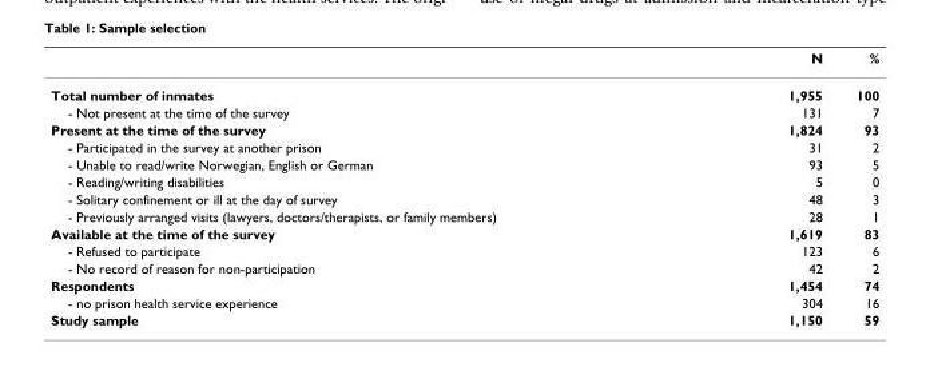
<table><thead><tr><td></td><td>N</td><td>%</td></tr></thead><tbody><tr><td>Total number of inmates</td><td>1,955</td><td>100</td></tr><tr><td>- Not present at the time of the survey</td><td>131</td><td>7</td></tr><tr><td>Present at the time of the survey</td><td>1,824</td><td>93</td></tr><tr><td>- Participated in the survey at another prison</td><td>31</td><td>2</td></tr><tr><td>- Unable to read/write Norwegian, English or German</td><td>93</td><td>5</td></tr><tr><td>- Reading/writing disabilities</td><td>5</td><td>0</td></tr><tr><td>- Solitary confinement or ill at the day of survey</td><td>48</td><td>3</td></tr><tr><td>- Previously arranged visits (lawyers, doctors/therapists, or family members)</td><td>28</td><td>1</td></tr><tr><td>Available at the time of the survey</td><td>1,619</td><td>83</td></tr><tr><td>- Refused to participate</td><td>123</td><td>6</td></tr><tr><td>- No record of reason for non-participation</td><td>42</td><td>2</td></tr><tr><td>Respondents</td><td>1,454</td><td>74</td></tr><tr><td>- no prison health service experience</td><td>304</td><td>16</td></tr><tr><td>Study sample</td><td>1,150</td><td>59</td></tr></tbody></table>